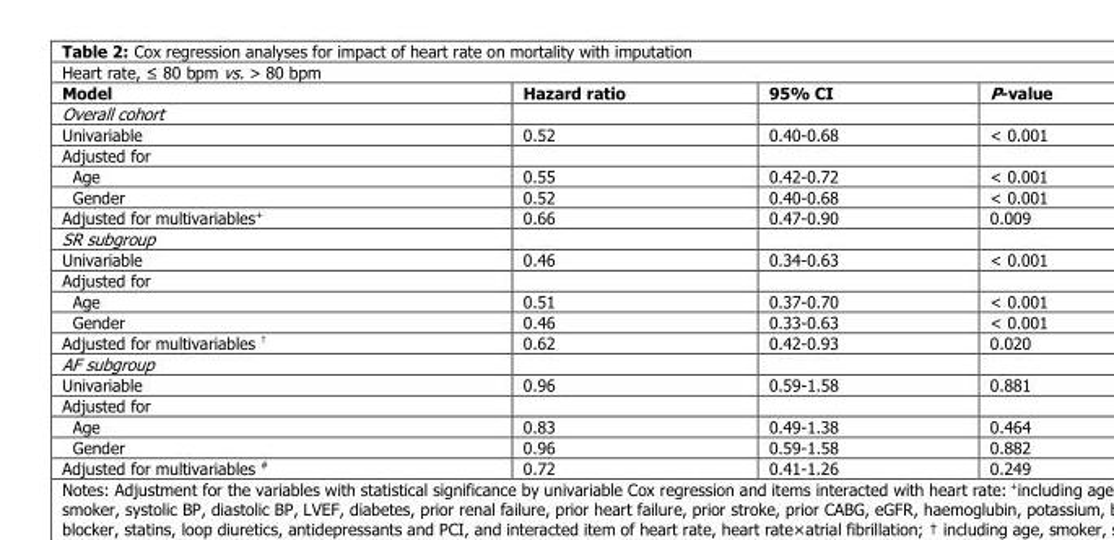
<table><thead><tr><td colspan="4">Heart rate, ≤ 80 bpm vs. &gt; 80 bpm</td></tr><tr><td>Model</td><td>Hazard ratio</td><td>95% CI</td><td>P-value</td></tr></thead><tbody><tr><td colspan="4">Overall cohort</td></tr><tr><td>Univariable</td><td>0.52</td><td>0.40-0.68</td><td>&lt; 0.001</td></tr><tr><td colspan="4">Adjusted for</td></tr><tr><td>Age</td><td>0.55</td><td>0.42-0.72</td><td>&lt; 0.001</td></tr><tr><td>Gender</td><td>0.52</td><td>0.40-0.68</td><td>&lt; 0.001</td></tr><tr><td>Adjusted for multivariables<sup>+</sup></td><td>0.66</td><td>0.47-0.90</td><td>0.009</td></tr><tr><td colspan="4">SR subgroup</td></tr><tr><td>Univariable</td><td>0.46</td><td>0.34-0.63</td><td>&lt; 0.001</td></tr><tr><td colspan="4">Adjusted for</td></tr><tr><td>Age</td><td>0.51</td><td>0.37-0.70</td><td>&lt; 0.001</td></tr><tr><td>Gender</td><td>0.46</td><td>0.33-0.63</td><td>&lt; 0.001</td></tr><tr><td>Adjusted for multivariables <sup>†</sup></td><td>0.62</td><td>0.42-0.93</td><td>0.020</td></tr><tr><td colspan="4">AF subgroup</td></tr><tr><td>Univariable</td><td>0.96</td><td>0.59-1.58</td><td>0.881</td></tr><tr><td colspan="4">Adjusted for</td></tr><tr><td>Age</td><td>0.83</td><td>0.49-1.38</td><td>0.464</td></tr><tr><td>Gender</td><td>0.96</td><td>0.59-1.58</td><td>0.882</td></tr><tr><td>Adjusted for multivariables <sup>#</sup></td><td>0.72</td><td>0.41-1.26</td><td>0.249</td></tr></tbody></table>